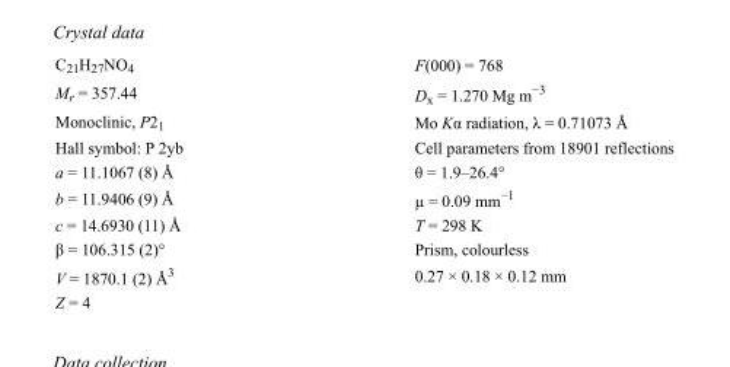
<table><tbody><tr><td>C<sub>21</sub>H<sub>27</sub>NO<sub>4</sub></td><td>F(000) = 768</td></tr><tr><td>M<sub>r</sub> = 357.44</td><td>D<sub>x</sub> = 1.270 Mg m<sup>−3</sup></td></tr><tr><td>Monoclinic, P2<sub>1</sub></td><td>Mo Kα radiation, λ = 0.71073 Å</td></tr><tr><td>Hall symbol: P 2yb</td><td>Cell parameters from 18901 reflections</td></tr><tr><td>a = 11.1067 (8) Å</td><td>θ = 1.9–26.4°</td></tr><tr><td>b = 11.9406 (9) Å</td><td>µ = 0.09 mm<sup>−1</sup></td></tr><tr><td>c = 14.6930 (11) Å</td><td>T = 298 K</td></tr><tr><td>β = 106.315 (2)°</td><td>Prism, colourless</td></tr><tr><td>V = 1870.1 (2) Å<sup>3</sup></td><td>0.27 × 0.18 × 0.12 mm</td></tr><tr><td>Z = 4</td><td></td></tr></tbody></table>